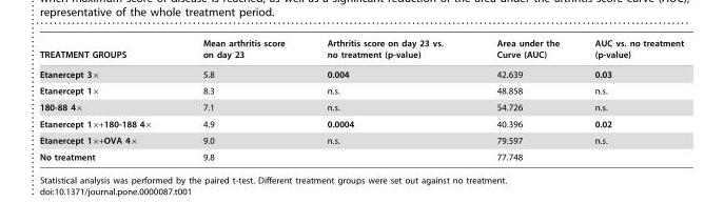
<table><thead><tr><td>TREATMENT GROUPS</td><td>Mean arthritis score on day 23</td><td>Arthritis score on day 23 vs. no treatment (p-value)</td><td>Area under the Curve (AUC)</td><td>AUC vs. no treatment (p-value)</td></tr></thead><tbody><tr><td>Etanercept 3×</td><td>5.8</td><td>0.004</td><td>42.639</td><td>0.03</td></tr><tr><td>Etanercept 1×</td><td>8.3</td><td>n.s.</td><td>48.858</td><td>n.s.</td></tr><tr><td>180-88 4×</td><td>7.1</td><td>n.s.</td><td>54.726</td><td>n.s.</td></tr><tr><td>Etanercept 1×+180-188 4×</td><td>4.9</td><td>0.0004</td><td>40.396</td><td>0.02</td></tr><tr><td>Etanercept 1×+OVA 4×</td><td>9.0</td><td>n.s.</td><td>79.597</td><td>n.s.</td></tr><tr><td>No treatment</td><td>9.8</td><td></td><td>77.748</td><td></td></tr></tbody></table>